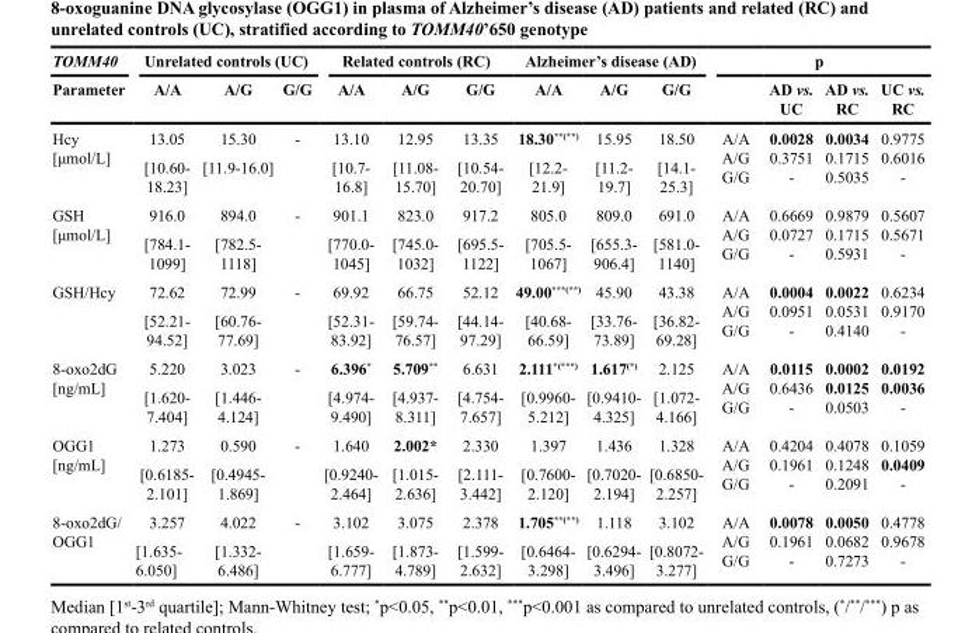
<table><thead><tr><td rowspan="2">TOMM40 Parameter</td><td colspan="3">Unrelated controls (UC)</td><td colspan="3">Related controls (RC)</td><td colspan="3">Alzheimer’s disease (AD)</td><td colspan="4">p</td></tr><tr><td>A/A</td><td>A/G</td><td>G/G</td><td>A/A</td><td>A/G</td><td>G/G</td><td>A/A</td><td>A/G</td><td>G/G</td><td></td><td>AD vs. UC</td><td>AD vs. RC</td><td>UC vs. RC</td></tr></thead><tbody><tr><td rowspan="2">Hcy [μmol/L]</td><td>13.05</td><td>15.30</td><td>-</td><td>13.10</td><td>12.95</td><td>13.35</td><td>18.30<sup>**(**)</sup></td><td>15.95</td><td>18.50</td><td rowspan="2">A/A A/G G/G</td><td rowspan="2">0.0028 0.3751 -</td><td rowspan="2">0.0034 0.1715 0.5035</td><td rowspan="2">0.9775 0.6016 -</td></tr><tr><td>[10.60- 18.23]</td><td>[11.9-16.0]</td><td></td><td>[10.7- 16.8]</td><td>[11.08- 15.70]</td><td>[10.54- 20.70]</td><td>[12.2- 21.9]</td><td>[11.2- 19.7]</td><td>[14.1- 25.3]</td></tr><tr><td rowspan="2">GSH [μmol/L]</td><td>916.0</td><td>894.0</td><td>-</td><td>901.1</td><td>823.0</td><td>917.2</td><td>805.0</td><td>809.0</td><td>691.0</td><td rowspan="2">A/A A/G G/G</td><td rowspan="2">0.6669 0.0727 -</td><td rowspan="2">0.9879 0.1715 0.5931</td><td rowspan="2">0.5607 0.5671 -</td></tr><tr><td>[784.1- 1099]</td><td>[782.5- 1118]</td><td></td><td>[770.0- 1045]</td><td>[745.0- 1032]</td><td>[695.5- 1122]</td><td>[705.5- 1067]</td><td>[655.3- 906.4]</td><td>[581.0- 1140]</td></tr><tr><td rowspan="2">GSH/Hcy</td><td>72.62</td><td>72.99</td><td>-</td><td>69.92</td><td>66.75</td><td>52.12</td><td>49.00<sup>***(**)</sup></td><td>45.90</td><td>43.38</td><td rowspan="2">A/A A/G G/G</td><td rowspan="2">0.0004 0.0951 -</td><td rowspan="2">0.0022 0.0531 0.4140</td><td rowspan="2">0.6234 0.9170 -</td></tr><tr><td>[52.21- 94.52]</td><td>[60.76- 77.69]</td><td></td><td>[52.31- 83.92]</td><td>[59.74- 76.57]</td><td>[44.14- 97.29]</td><td>[40.68- 66.59]</td><td>[33.76- 73.89]</td><td>[36.82- 69.28]</td></tr><tr><td rowspan="2">8-oxo2dG [ng/mL]</td><td>5.220</td><td>3.023</td><td>-</td><td>6.396*</td><td>5.709**</td><td>6.631</td><td>2.111<sup>*(***)</sup></td><td>1.617<sup>(*)</sup></td><td>2.125</td><td rowspan="2">A/A A/G G/G</td><td rowspan="2">0.0115 0.6436 -</td><td rowspan="2">0.0002 0.0125 0.0503</td><td rowspan="2">0.0192 0.0036 -</td></tr><tr><td>[1.620- 7.404]</td><td>[1.446- 4.124]</td><td></td><td>[4.974- 9.490]</td><td>[4.937- 8.311]</td><td>[4.754- 7.657]</td><td>[0.9960- 5.212]</td><td>[0.9410- 4.325]</td><td>[1.072- 4.166]</td></tr><tr><td rowspan="2">OGG1 [ng/mL]</td><td>1.273</td><td>0.590</td><td>-</td><td>1.640</td><td>2.002*</td><td>2.330</td><td>1.397</td><td>1.436</td><td>1.328</td><td rowspan="2">A/A A/G G/G</td><td rowspan="2">0.4204 0.1961 -</td><td rowspan="2">0.4078 0.1248 0.2091</td><td rowspan="2">0.1059 0.0409 -</td></tr><tr><td>[0.6185- 2.101]</td><td>[0.4945- 1.869]</td><td></td><td>[0.9240- 2.464]</td><td>[1.015- 2.636]</td><td>[2.111- 3.442]</td><td>[0.7600- 2.120]</td><td>[0.7020- 2.194]</td><td>[0.6850- 2.257]</td></tr><tr><td rowspan="2">8-oxo2dG/ OGG1</td><td>3.257</td><td>4.022</td><td>-</td><td>3.102</td><td>3.075</td><td>2.378</td><td>1.705<sup>**(**)</sup></td><td>1.118</td><td>3.102</td><td rowspan="2">A/A A/G G/G</td><td rowspan="2">0.0078 0.1961 -</td><td rowspan="2">0.0050 0.0682 0.7273</td><td rowspan="2">0.4778 0.9678 -</td></tr><tr><td>[1.635- 6.050]</td><td>[1.332- 6.486]</td><td></td><td>[1.659- 6.777]</td><td>[1.873- 4.789]</td><td>[1.599- 2.632]</td><td>[0.6464- 3.298]</td><td>[0.6294- 3.496]</td><td>[0.8072- 3.277]</td></tr></tbody></table>